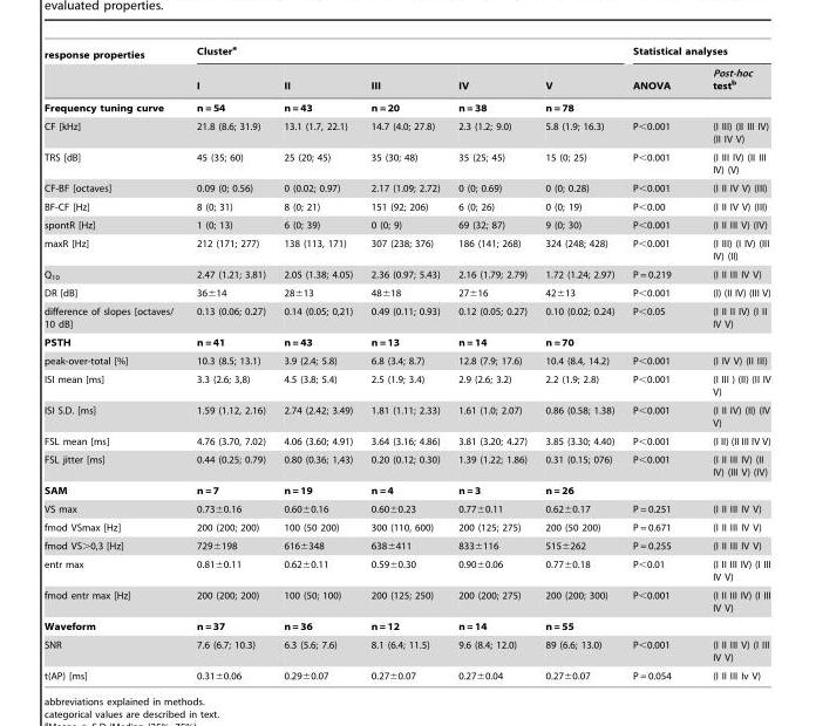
<table><thead><tr><td rowspan="2">response properties</td><td colspan="5">Cluster<sup>a</sup></td><td colspan="2">Statistical analyses</td></tr><tr><td>I</td><td>II</td><td>III</td><td>IV</td><td>V</td><td>ANOVA</td><td>Post-hoc test<sup>b</sup></td></tr></thead><tbody><tr><td>Frequency tuning curve</td><td>n = 54</td><td>n = 43</td><td>n = 20</td><td>n = 38</td><td>n = 78</td><td></td><td></td></tr><tr><td>CF [kHz]</td><td>21.8 (8.6; 31.9)</td><td>13.1 (1.7, 22.1)</td><td>14.7 (4.0; 27.8)</td><td>2.3 (1.2; 9.0)</td><td>5.8 (1.9; 16.3)</td><td>P&lt;0.001</td><td>(I III) (II III IV) (II IV V)</td></tr><tr><td>TRS [dB]</td><td>45 (35; 60)</td><td>25 (20; 45)</td><td>35 (30; 48)</td><td>35 (25; 45)</td><td>15 (0; 25)</td><td>P&lt;0.001</td><td>(I III IV) (II III IV) (V)</td></tr><tr><td>CF-BF [octaves]</td><td>0.09 (0; 0.56)</td><td>0 (0.02; 0.97)</td><td>2.17 (1.09; 2.72)</td><td>0 (0; 0.69)</td><td>0 (0; 0.28)</td><td>P&lt;0.001</td><td>(I II IV V) (III)</td></tr><tr><td>BF-CF [Hz]</td><td>8 (0; 31)</td><td>8 (0; 21)</td><td>151 (92; 206)</td><td>6 (0; 26)</td><td>0 (0; 19)</td><td>P&lt;0.00</td><td>(I II IV V) (III)</td></tr><tr><td>spontR [Hz]</td><td>1 (0; 13)</td><td>6 (0; 39)</td><td>0 (0; 9)</td><td>69 (32; 87)</td><td>9 (0; 30)</td><td>P&lt;0.001</td><td>(I II III V) (IV)</td></tr><tr><td>maxR [Hz]</td><td>212 (171; 277)</td><td>138 (113, 171)</td><td>307 (238; 376)</td><td>186 (141; 268)</td><td>324 (248; 428)</td><td>P&lt;0.001</td><td>(I III) (I IV) (III IV) (II)</td></tr><tr><td>Q<sub>10</sub></td><td>2.47 (1.21; 3.81)</td><td>2.05 (1.38; 4.05)</td><td>2.36 (0.97; 5.43)</td><td>2.16 (1.79; 2.79)</td><td>1.72 (1.24; 2.97)</td><td>P = 0.219</td><td>(I II III IV V)</td></tr><tr><td>DR [dB]</td><td>36±14</td><td>28±13</td><td>48±18</td><td>27±16</td><td>42±13</td><td>P&lt;0.001</td><td>(I) (II IV) (III V)</td></tr><tr><td>difference of slopes [octaves/ 10 dB]</td><td>0.13 (0.06; 0.27)</td><td>0.14 (0.05; 0,21)</td><td>0.49 (0.11; 0.93)</td><td>0.12 (0.05; 0.27)</td><td>0.10 (0.02; 0.24)</td><td>P&lt;0.05</td><td>(I II II IV) (I II IV V)</td></tr><tr><td>PSTH</td><td>n = 41</td><td>n = 43</td><td>n = 13</td><td>n = 14</td><td>n = 70</td><td></td><td></td></tr><tr><td>peak-over-total [%]</td><td>10.3 (8.5; 13.1)</td><td>3.9 (2.4; 5.8)</td><td>6.8 (3.4; 8.7)</td><td>12.8 (7.9; 17.6)</td><td>10.4 (8.4, 14.2)</td><td>P&lt;0.001</td><td>(I IV V) (II III)</td></tr><tr><td>ISI mean [ms]</td><td>3.3 (2.6; 3,8)</td><td>4.5 (3.8; 5.4)</td><td>2.5 (1.9; 3.4)</td><td>2.9 (2.6; 3.2)</td><td>2.2 (1.9; 2.8)</td><td>P&lt;0.001</td><td>(I III ) (II) (II IV V)</td></tr><tr><td>ISI S.D. [ms]</td><td>1.59 (1.12, 2.16)</td><td>2.74 (2.42; 3.49)</td><td>1.81 (1.11; 2.33)</td><td>1.61 (1.0; 2.07)</td><td>0.86 (0.58; 1.38)</td><td>P&lt;0.001</td><td>(I II IV) (II) (IV V)</td></tr><tr><td>FSL mean [ms]</td><td>4.76 (3.70, 7.02)</td><td>4.06 (3.60; 4.91)</td><td>3.64 (3.16; 4.86)</td><td>3.81 (3.20; 4.27)</td><td>3.85 (3.30; 4.40)</td><td>P&lt;0.001</td><td>(I II) (II III IV V)</td></tr><tr><td>FSL jitter [ms]</td><td>0.44 (0.25; 0.79)</td><td>0.80 (0.36; 1,43)</td><td>0.20 (0.12; 0.30)</td><td>1.39 (1.22; 1.86)</td><td>0.31 (0.15; 076)</td><td>P&lt;0.001</td><td>(I II III IV) (II IV) (III V) (IV)</td></tr><tr><td>SAM</td><td>n = 7</td><td>n = 19</td><td>n = 4</td><td>n = 3</td><td>n = 26</td><td></td><td></td></tr><tr><td>VS max</td><td>0.73±0.16</td><td>0.60±0.16</td><td>0.60±0.23</td><td>0.77±0.11</td><td>0.62±0.17</td><td>P = 0.251</td><td>(I II III IV V)</td></tr><tr><td>fmod VSmax [Hz]</td><td>200 (200; 200)</td><td>100 (50 200)</td><td>300 (110, 600)</td><td>200 (125; 275)</td><td>200 (50 200)</td><td>P = 0.671</td><td>(I II III IV V)</td></tr><tr><td>fmod VS&gt;0,3 [Hz]</td><td>729±198</td><td>616±348</td><td>638±411</td><td>833±116</td><td>515±262</td><td>P = 0.255</td><td>(I II III IV V)</td></tr><tr><td>entr max</td><td>0.81±0.11</td><td>0.62±0.11</td><td>0.59±0.30</td><td>0.90±0.06</td><td>0.77±0.18</td><td>P&lt;0.01</td><td>(I II III IV) (I III IV V)</td></tr><tr><td>fmod entr max [Hz]</td><td>200 (200; 200)</td><td>100 (50; 100)</td><td>200 (125; 250)</td><td>200 (200; 275)</td><td>200 (200; 300)</td><td>P&lt;0.001</td><td>(I II III IV) (I III IV V)</td></tr><tr><td>Waveform</td><td>n = 37</td><td>n = 36</td><td>n = 12</td><td>n = 14</td><td>n = 55</td><td></td><td></td></tr><tr><td>SNR</td><td>7.6 (6.7; 10.3)</td><td>6.3 (5.6; 7.6)</td><td>8.1 (6.4; 11.5)</td><td>9.6 (8.4; 12.0)</td><td>89 (6.6; 13.0)</td><td>P&lt;0.001</td><td>(I II III V) (I III IV V)</td></tr><tr><td>t(AP) [ms]</td><td>0.31±0.06</td><td>0.29±0.07</td><td>0.27±0.07</td><td>0.27±0.04</td><td>0.27±0.07</td><td>P = 0.054</td><td>(I II III Iv V)</td></tr></tbody></table>